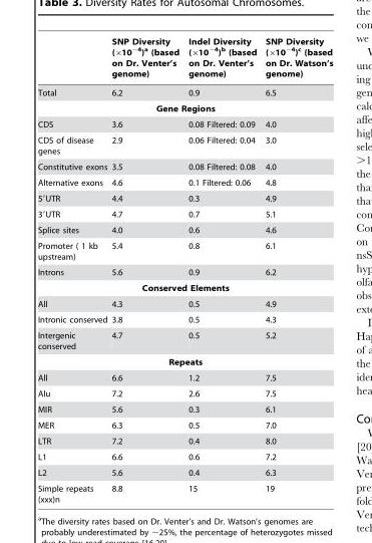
<table><thead><tr><td></td><td>SNP Diversity (×10<sup>−4</sup>)<sup>a</sup> (based on Dr. Venter’s genome)</td><td>Indel Diversity (×10<sup>−4</sup>)<sup>b</sup> (based on Dr. Venter’s genome)</td><td>SNP Diversity (×10<sup>−4</sup>)<sup>c</sup> (based on Dr. Watson’s genome)</td></tr></thead><tbody><tr><td>Total</td><td>6.2</td><td>0.9</td><td>6.5</td></tr><tr><td colspan="4">Gene Regions</td></tr><tr><td>CDS</td><td>3.6</td><td>0.08 Filtered: 0.09</td><td>4.0</td></tr><tr><td>CDS of disease genes</td><td>2.9</td><td>0.06 Filtered: 0.04</td><td>3.0</td></tr><tr><td>Constitutive exons</td><td>3.5</td><td>0.08 Filtered: 0.08</td><td>4.0</td></tr><tr><td>Alternative exons</td><td>4.6</td><td>0.1 Filtered: 0.06</td><td>4.8</td></tr><tr><td>5′UTR</td><td>4.4</td><td>0.3</td><td>4.9</td></tr><tr><td>3′UTR</td><td>4.7</td><td>0.7</td><td>5.1</td></tr><tr><td>Splice sites</td><td>4.0</td><td>0.6</td><td>4.6</td></tr><tr><td>Promoter ( 1 kb upstream)</td><td>5.4</td><td>0.8</td><td>6.1</td></tr><tr><td>Introns</td><td>5.6</td><td>0.9</td><td>6.2</td></tr><tr><td colspan="4">Conserved Elements</td></tr><tr><td>All</td><td>4.3</td><td>0.5</td><td>4.9</td></tr><tr><td>Intronic conserved</td><td>3.8</td><td>0.5</td><td>4.3</td></tr><tr><td>Intergenic conserved</td><td>4.7</td><td>0.5</td><td>5.2</td></tr><tr><td colspan="4">Repeats</td></tr><tr><td>All</td><td>6.6</td><td>1.2</td><td>7.5</td></tr><tr><td>Alu</td><td>7.2</td><td>2.6</td><td>7.5</td></tr><tr><td>MIR</td><td>5.6</td><td>0.3</td><td>6.1</td></tr><tr><td>MER</td><td>6.3</td><td>0.5</td><td>7.0</td></tr><tr><td>LTR</td><td>7.2</td><td>0.4</td><td>8.0</td></tr><tr><td>L1</td><td>6.6</td><td>0.6</td><td>7.2</td></tr><tr><td>L2</td><td>5.6</td><td>0.4</td><td>6.3</td></tr><tr><td>Simple repeats (xxx)n</td><td>8.8</td><td>15</td><td>19</td></tr></tbody></table>